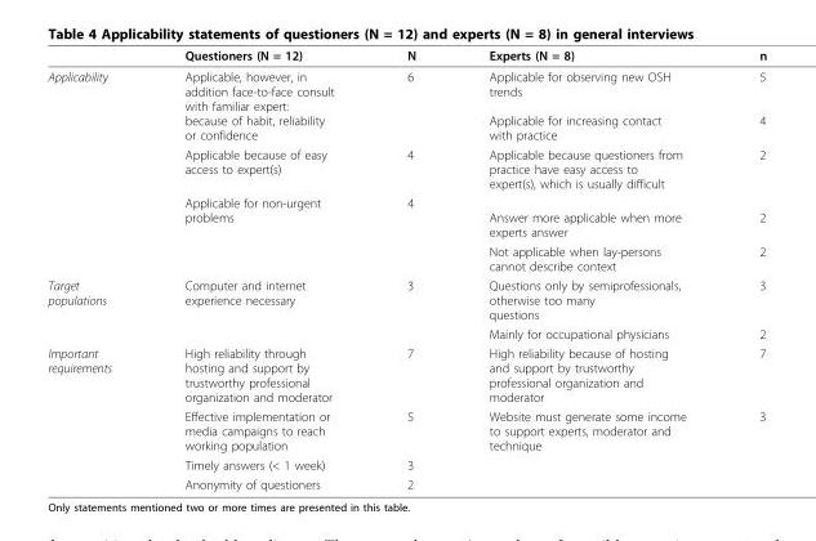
<table><thead><tr><td></td><td>Questioners (N = 12)</td><td>N</td><td>Experts (N = 8)</td><td>n</td></tr></thead><tbody><tr><td rowspan="4">Applicability</td><td>Applicable, however, in addition face-to-face consult with familiar expert: because of habit, reliability or confidence</td><td>6</td><td>Applicable for observing new OSH trends Applicable for increasing contact with practice</td><td>5 4</td></tr><tr><td>Applicable because of easy access to expert(s)</td><td>4</td><td>Applicable because questioners from practice have easy access to expert(s), which is usually difficult</td><td>2</td></tr><tr><td>Applicable for non-urgent problems</td><td>4</td><td>Answer more applicable when more experts answer</td><td>2</td></tr><tr><td></td><td></td><td>Not applicable when lay-persons cannot describe context</td><td>2</td></tr><tr><td rowspan="2">Target populations</td><td>Computer and internet experience necessary</td><td>3</td><td>Questions only by semiprofessionals, otherwise too many questions</td><td>3</td></tr><tr><td></td><td></td><td>Mainly for occupational physicians</td><td>2</td></tr><tr><td rowspan="4">Important requirements</td><td>High reliability through hosting and support by trustworthy professional organization and moderator</td><td>7</td><td>High reliability because of hosting and support by trustworthy professional organization and moderator</td><td>7</td></tr><tr><td>Effective implementation or media campaigns to reach working population</td><td>5</td><td>Website must generate some income to support experts, moderator and technique</td><td>3</td></tr><tr><td>Timely answers (&lt; 1 week)</td><td>3</td><td></td><td></td></tr><tr><td>Anonymity of questioners</td><td>2</td><td></td><td></td></tr></tbody></table>